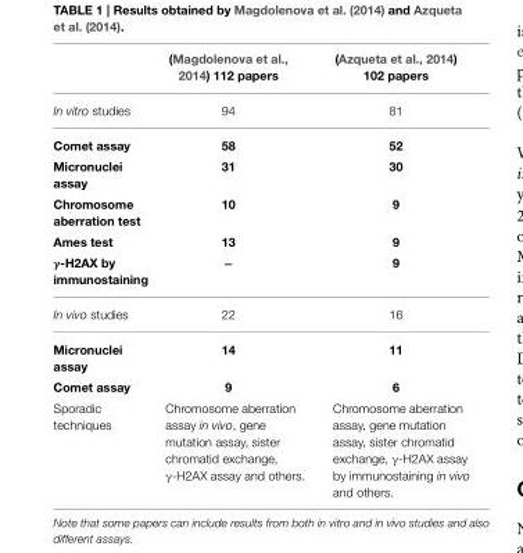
<table><thead><tr><td></td><td>(Magdolenova et al., 2014) 112 papers</td><td>(Azqueta et al., 2014) 102 papers</td></tr></thead><tbody><tr><td>In vitro studies</td><td>94</td><td>81</td></tr><tr><td>Comet assay</td><td>58</td><td>52</td></tr><tr><td>Micronuclei assay</td><td>31</td><td>30</td></tr><tr><td>Chromosome aberration test</td><td>10</td><td>9</td></tr><tr><td>Ames test</td><td>13</td><td>9</td></tr><tr><td>γ-H2AX by immunostaining</td><td>−</td><td>9</td></tr><tr><td>In vivo studies</td><td>22</td><td>16</td></tr><tr><td>Micronuclei assay</td><td>14</td><td>11</td></tr><tr><td>Comet assay</td><td>9</td><td>6</td></tr><tr><td>Sporadic techniques</td><td>Chromosome aberration assay in vivo, gene mutation assay, sister chromatid exchange, γ-H2AX assay and others.</td><td>Chromosome aberration assay, gene mutation assay, sister chromatid exchange, γ-H2AX assay by immunostaining in vivo and others.</td></tr></tbody></table>